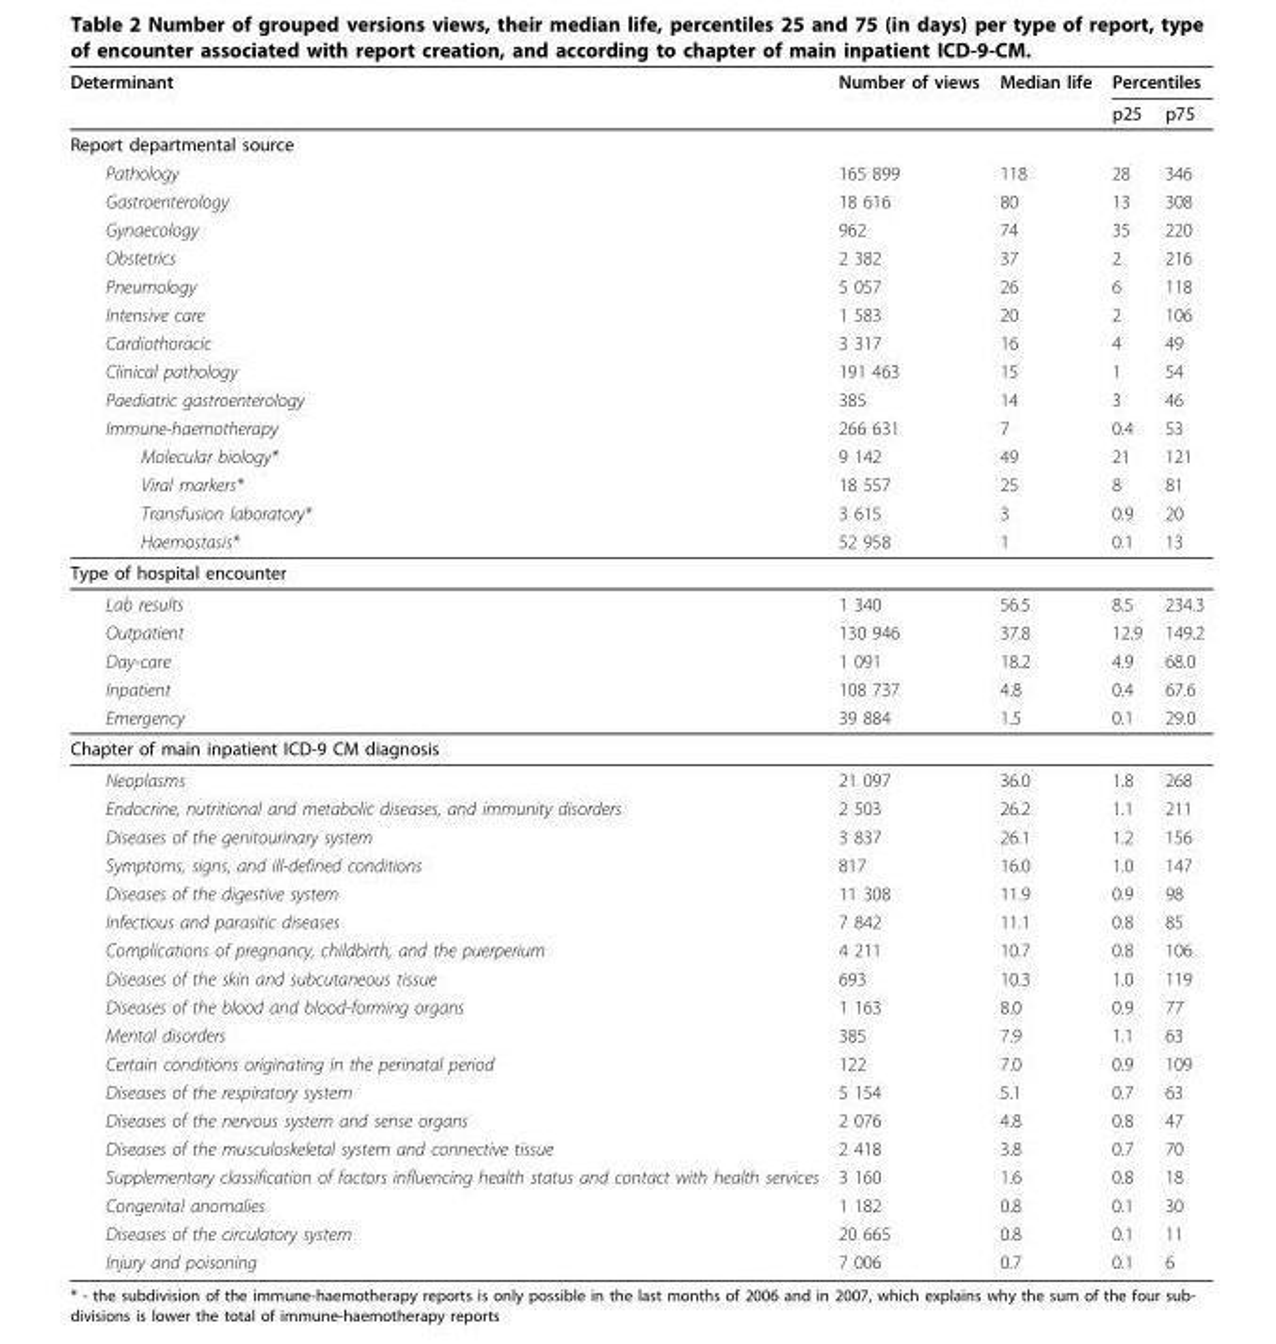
<table><thead><tr><td rowspan="2">Determinant</td><td rowspan="2">Number of views</td><td rowspan="2">Median life</td><td colspan="2">Percentiles</td></tr><tr><td>p25</td><td>p75</td></tr></thead><tbody><tr><td colspan="5">Report departmental source</td></tr><tr><td>Pathology</td><td>165 899</td><td>118</td><td>28</td><td>346</td></tr><tr><td>Gastroenterology</td><td>18 616</td><td>80</td><td>13</td><td>308</td></tr><tr><td>Gynaecology</td><td>962</td><td>74</td><td>35</td><td>220</td></tr><tr><td>Obstetrics</td><td>2 382</td><td>37</td><td>2</td><td>216</td></tr><tr><td>Pneumology</td><td>5 057</td><td>26</td><td>6</td><td>118</td></tr><tr><td>Intensive care</td><td>1 583</td><td>20</td><td>2</td><td>106</td></tr><tr><td>Cardiothoracic</td><td>3 317</td><td>16</td><td>4</td><td>49</td></tr><tr><td>Clinical pathology</td><td>191 463</td><td>15</td><td>1</td><td>54</td></tr><tr><td>Paediatric gastroenterology</td><td>385</td><td>14</td><td>3</td><td>46</td></tr><tr><td>Immune-haemotherapy</td><td>266 631</td><td>7</td><td>0.4</td><td>53</td></tr><tr><td>Molecular biology*</td><td>9 142</td><td>49</td><td>21</td><td>121</td></tr><tr><td>Viral markers*</td><td>18 557</td><td>25</td><td>8</td><td>81</td></tr><tr><td>Transfusion laboratory*</td><td>3 615</td><td>3</td><td>0.9</td><td>20</td></tr><tr><td>Haemostasis*</td><td>52 958</td><td>1</td><td>0.1</td><td>13</td></tr><tr><td colspan="5">Type of hospital encounter</td></tr><tr><td>Lab results</td><td>1 340</td><td>56.5</td><td>8.5</td><td>234.3</td></tr><tr><td>Outpatient</td><td>130 946</td><td>37.8</td><td>12.9</td><td>149.2</td></tr><tr><td>Day-care</td><td>1 091</td><td>18.2</td><td>4.9</td><td>68.0</td></tr><tr><td>Inpatient</td><td>108 737</td><td>4.8</td><td>0.4</td><td>67.6</td></tr><tr><td>Emergency</td><td>39 884</td><td>1.5</td><td>0.1</td><td>29.0</td></tr><tr><td colspan="5">Chapter of main inpatient ICD-9 CM diagnosis</td></tr><tr><td>Neoplasms</td><td>21 097</td><td>36.0</td><td>1.8</td><td>268</td></tr><tr><td>Endocrine, nutritional and metabolic diseases, and immunity disorders</td><td>2 503</td><td>26.2</td><td>1.1</td><td>211</td></tr><tr><td>Diseases of the genitourinary system</td><td>3 837</td><td>26.1</td><td>1.2</td><td>156</td></tr><tr><td>Symptoms, signs, and ill-defined conditions</td><td>817</td><td>16.0</td><td>1.0</td><td>147</td></tr><tr><td>Diseases of the digestive system</td><td>11 308</td><td>11.9</td><td>0.9</td><td>98</td></tr><tr><td>Infectious and parasitic diseases</td><td>7 842</td><td>11.1</td><td>0.8</td><td>85</td></tr><tr><td>Complications of pregnancy, childbirth, and the puerperium</td><td>4 211</td><td>10.7</td><td>0.8</td><td>106</td></tr><tr><td>Diseases of the skin and subcutaneous tissue</td><td>693</td><td>10.3</td><td>1.0</td><td>119</td></tr><tr><td>Diseases of the blood and blood-forming organs</td><td>1 163</td><td>8.0</td><td>0.9</td><td>77</td></tr><tr><td>Mental disorders</td><td>385</td><td>7.9</td><td>1.1</td><td>63</td></tr><tr><td>Certain conditions originating in the perinatal period</td><td>122</td><td>7.0</td><td>0.9</td><td>109</td></tr><tr><td>Diseases of the respiratory system</td><td>5 154</td><td>5.1</td><td>0.7</td><td>63</td></tr><tr><td>Diseases of the nervous system and sense organs</td><td>2 076</td><td>4.8</td><td>0.8</td><td>47</td></tr><tr><td>Diseases of the musculoskeletal system and connective tissue</td><td>2 418</td><td>3.8</td><td>0.7</td><td>70</td></tr><tr><td>Supplementary classification of factors influencing health status and contact with health services</td><td>3 160</td><td>1.6</td><td>0.8</td><td>18</td></tr><tr><td>Congenital anomalies</td><td>1 182</td><td>0.8</td><td>0.1</td><td>30</td></tr><tr><td>Diseases of the circulatory system</td><td>20 665</td><td>0.8</td><td>0.1</td><td>11</td></tr><tr><td>Injury and poisoning</td><td>7 006</td><td>0.7</td><td>0.1</td><td>6</td></tr></tbody></table>